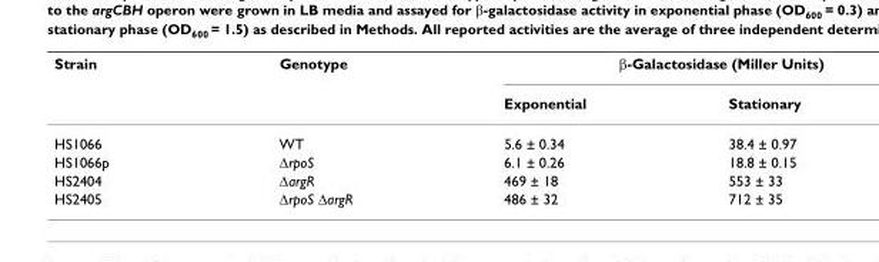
<table><thead><tr><td rowspan="2">Strain</td><td rowspan="2">Genotype</td><td colspan="2">β-Galactosidase (Miller Units)</td></tr><tr><td>Exponential</td><td>Stationary</td></tr></thead><tbody><tr><td>HS1066</td><td>WT</td><td>5.6 ± 0.34</td><td>38.4 ± 0.97</td></tr><tr><td>HS1066p</td><td>∆rpoS</td><td>6.1 ± 0.26</td><td>18.8 ± 0.15</td></tr><tr><td>HS2404</td><td>∆argR</td><td>469 ± 18</td><td>553 ± 33</td></tr><tr><td>HS2405</td><td>∆rpoS ∆argR</td><td>486 ± 32</td><td>712 ± 35</td></tr></tbody></table>